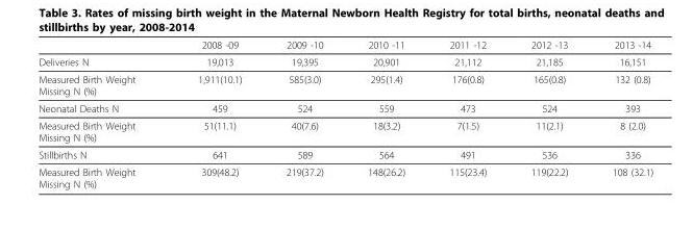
<table><thead><tr><td></td><td>2008 -09</td><td>2009 -10</td><td>2010 -11</td><td>2011 -12</td><td>2012 -13</td><td>2013 -14</td></tr></thead><tbody><tr><td>Deliveries N</td><td>19,013</td><td>19,395</td><td>20,901</td><td>21,112</td><td>21,185</td><td>16,151</td></tr><tr><td>Measured Birth Weight Missing N (%)</td><td>1,911(10.1)</td><td>585(3.0)</td><td>295(1.4)</td><td>176(0.8)</td><td>165(0.8)</td><td>132 (0.8)</td></tr><tr><td>Neonatal Deaths N</td><td>459</td><td>524</td><td>559</td><td>473</td><td>524</td><td>393</td></tr><tr><td>Measured Birth Weight Missing N (%)</td><td>51(11.1)</td><td>40(7.6)</td><td>18(3.2)</td><td>7(1.5)</td><td>11(2.1)</td><td>8 (2.0)</td></tr><tr><td>Stillbirths N</td><td>641</td><td>589</td><td>564</td><td>491</td><td>536</td><td>336</td></tr><tr><td>Measured Birth Weight Missing N (%)</td><td>309(48.2)</td><td>219(37.2)</td><td>148(26.2)</td><td>115(23.4)</td><td>119(22.2)</td><td>108 (32.1)</td></tr></tbody></table>